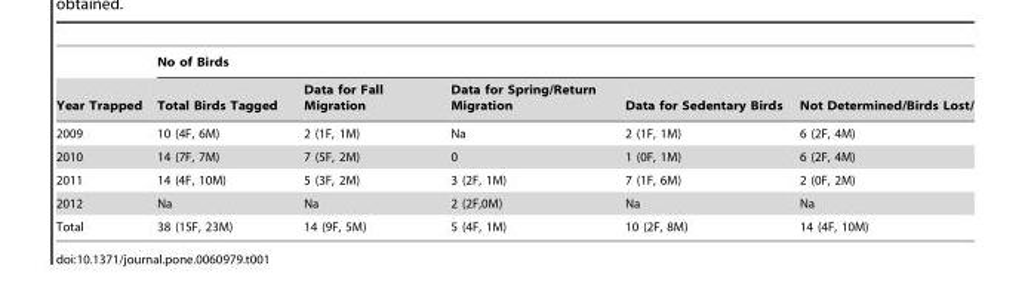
<table><thead><tr><td rowspan="2">Year Trapped</td><td colspan="5">No of Birds</td></tr><tr><td>Total Birds Tagged</td><td>Data for Fall Migration</td><td>Data for Spring/Return Migration</td><td>Data for Sedentary Birds</td><td>Not Determined/Birds Lost/</td></tr></thead><tbody><tr><td>2009</td><td>10 (4F, 6M)</td><td>2 (1F, 1M)</td><td>Na</td><td>2 (1F, 1M)</td><td>6 (2F, 4M)</td></tr><tr><td>2010</td><td>14 (7F, 7M)</td><td>7 (5F, 2M)</td><td>0</td><td>1 (0F, 1M)</td><td>6 (2F, 4M)</td></tr><tr><td>2011</td><td>14 (4F, 10M)</td><td>5 (3F, 2M)</td><td>3 (2F, 1M)</td><td>7 (1F, 6M)</td><td>2 (0F, 2M)</td></tr><tr><td>2012</td><td>Na</td><td>Na</td><td>2 (2F,0M)</td><td>Na</td><td>Na</td></tr><tr><td>Total</td><td>38 (15F, 23M)</td><td>14 (9F, 5M)</td><td>5 (4F, 1M)</td><td>10 (2F, 8M)</td><td>14 (4F, 10M)</td></tr></tbody></table>